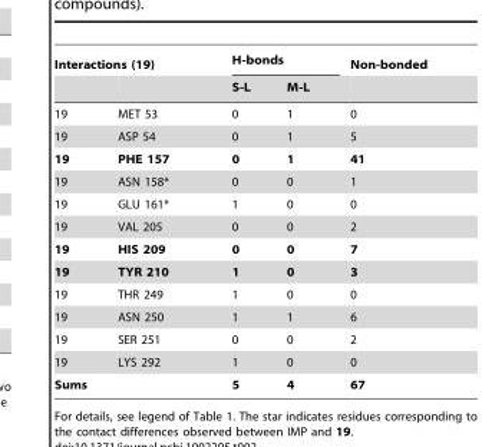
<table><thead><tr><td colspan="2">Interactions (19)</td><td colspan="2">H-bonds</td><td rowspan="2">Non-bonded</td></tr><tr><td></td><td></td><td>S-L</td><td>M-L</td></tr></thead><tbody><tr><td>19</td><td>MET 53</td><td>0</td><td>1</td><td>0</td></tr><tr><td>19</td><td>ASP 54</td><td>0</td><td>1</td><td>5</td></tr><tr><td>19</td><td>PHE 157</td><td>0</td><td>1</td><td>41</td></tr><tr><td>19</td><td>ASN 158*</td><td>0</td><td>0</td><td>1</td></tr><tr><td>19</td><td>GLU 161*</td><td>1</td><td>0</td><td>0</td></tr><tr><td>19</td><td>VAL 205</td><td>0</td><td>0</td><td>2</td></tr><tr><td>19</td><td>HIS 209</td><td>0</td><td>0</td><td>7</td></tr><tr><td>19</td><td>TYR 210</td><td>1</td><td>0</td><td>3</td></tr><tr><td>19</td><td>THR 249</td><td>1</td><td>0</td><td>0</td></tr><tr><td>19</td><td>ASN 250</td><td>1</td><td>1</td><td>6</td></tr><tr><td>19</td><td>SER 251</td><td>0</td><td>0</td><td>2</td></tr><tr><td>19</td><td>LYS 292</td><td>1</td><td>0</td><td>0</td></tr><tr><td>Sums</td><td></td><td>5</td><td>4</td><td>67</td></tr></tbody></table>